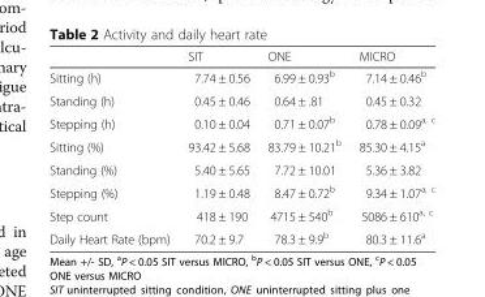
<table><thead><tr><td></td><td>SIT</td><td>ONE</td><td>MICRO</td></tr></thead><tbody><tr><td>Sitting (h)</td><td>7.74 ± 0.56</td><td>6.99 ± 0.93<sup>b</sup></td><td>7.14 ± 0.46<sup>b</sup></td></tr><tr><td>Standing (h)</td><td>0.45 ± 0.46</td><td>0.64 ± .81</td><td>0.45 ± 0.32</td></tr><tr><td>Stepping (h)</td><td>0.10 ± 0.04</td><td>0.71 ± 0.07<sup>b</sup></td><td>0.78 ± 0.09<sup>a, c</sup></td></tr><tr><td>Sitting (%)</td><td>93.42 ± 5.68</td><td>83.79 ± 10.21<sup>b</sup></td><td>85.30 ± 4.15<sup>a</sup></td></tr><tr><td>Standing (%)</td><td>5.40 ± 5.65</td><td>7.72 ± 10.01</td><td>5.36 ± 3.82</td></tr><tr><td>Stepping (%)</td><td>1.19 ± 0.48</td><td>8.47 ± 0.72<sup>b</sup></td><td>9.34 ± 1.07<sup>a, c</sup></td></tr><tr><td>Step count</td><td>418 ± 190</td><td>4715 ± 540<sup>b</sup></td><td>5086 ± 610<sup>a, c</sup></td></tr><tr><td>Daily Heart Rate (bpm)</td><td>70.2 ± 9.7</td><td>78.3 ± 9.9<sup>b</sup></td><td>80.3 ± 11.6<sup>a</sup></td></tr></tbody></table>